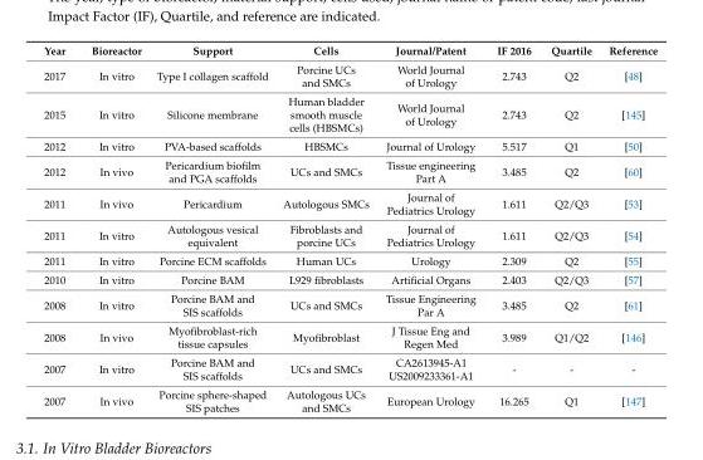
<table><thead><tr><td>Year</td><td>Bioreactor</td><td>Support</td><td>Cells</td><td>Journal/Patent</td><td>IF 2016</td><td>Quartile</td><td>Reference</td></tr></thead><tbody><tr><td>2017</td><td>In vitro</td><td>Type I collagen scaffold</td><td>Porcine UCs and SMCs</td><td>World Journal of Urology</td><td>2.743</td><td>Q2</td><td>[48]</td></tr><tr><td>2015</td><td>In vitro</td><td>Silicone membrane</td><td>Human bladder smooth muscle cells (HBSMCs)</td><td>World Journal of Urology</td><td>2.743</td><td>Q2</td><td>[145]</td></tr><tr><td>2012</td><td>In vitro</td><td>PVA-based scaffolds</td><td>HBSMCs</td><td>Journal of Urology</td><td>5.517</td><td>Q1</td><td>[50]</td></tr><tr><td>2012</td><td>In vivo</td><td>Pericardium biofilm and PGA scaffolds</td><td>UCs and SMCs</td><td>Tissue engineering Part A</td><td>3.485</td><td>Q2</td><td>[60]</td></tr><tr><td>2011</td><td>In vivo</td><td>Pericardium</td><td>Autologous SMCs</td><td>Journal of Pediatrics Urology</td><td>1.611</td><td>Q2/Q3</td><td>[53]</td></tr><tr><td>2011</td><td>In vitro</td><td>Autologous vesical equivalent</td><td>Fibroblasts and porcine UCs</td><td>Journal of Pediatrics Urology</td><td>1.611</td><td>Q2/Q3</td><td>[54]</td></tr><tr><td>2011</td><td>In vitro</td><td>Porcine ECM scaffolds</td><td>Human UCs</td><td>Urology</td><td>2.309</td><td>Q2</td><td>[55]</td></tr><tr><td>2010</td><td>In vitro</td><td>Porcine BAM</td><td>L929 fibroblasts</td><td>Artificial Organs</td><td>2.403</td><td>Q2/Q3</td><td>[57]</td></tr><tr><td>2008</td><td>In vitro</td><td>Porcine BAM and SIS scaffolds</td><td>UCs and SMCs</td><td>Tissue Engineering Par A</td><td>3.485</td><td>Q2</td><td>[61]</td></tr><tr><td>2008</td><td>In vivo</td><td>Myofibroblast-rich tissue capsules</td><td>Myofibroblast</td><td>J Tissue Eng and Regen Med</td><td>3.989</td><td>Q1/Q2</td><td>[146]</td></tr><tr><td>2007</td><td>In vitro</td><td>Porcine BAM and SIS scaffolds</td><td>UCs and SMCs</td><td>CA2613945-A1 US2009233361-A1</td><td>-</td><td>-</td><td>-</td></tr><tr><td>2007</td><td>In vivo</td><td>Porcine sphere-shaped SIS patches</td><td>Autologous UCs and SMCs</td><td>European Urology</td><td>16.265</td><td>Q1</td><td>[147]</td></tr></tbody></table>